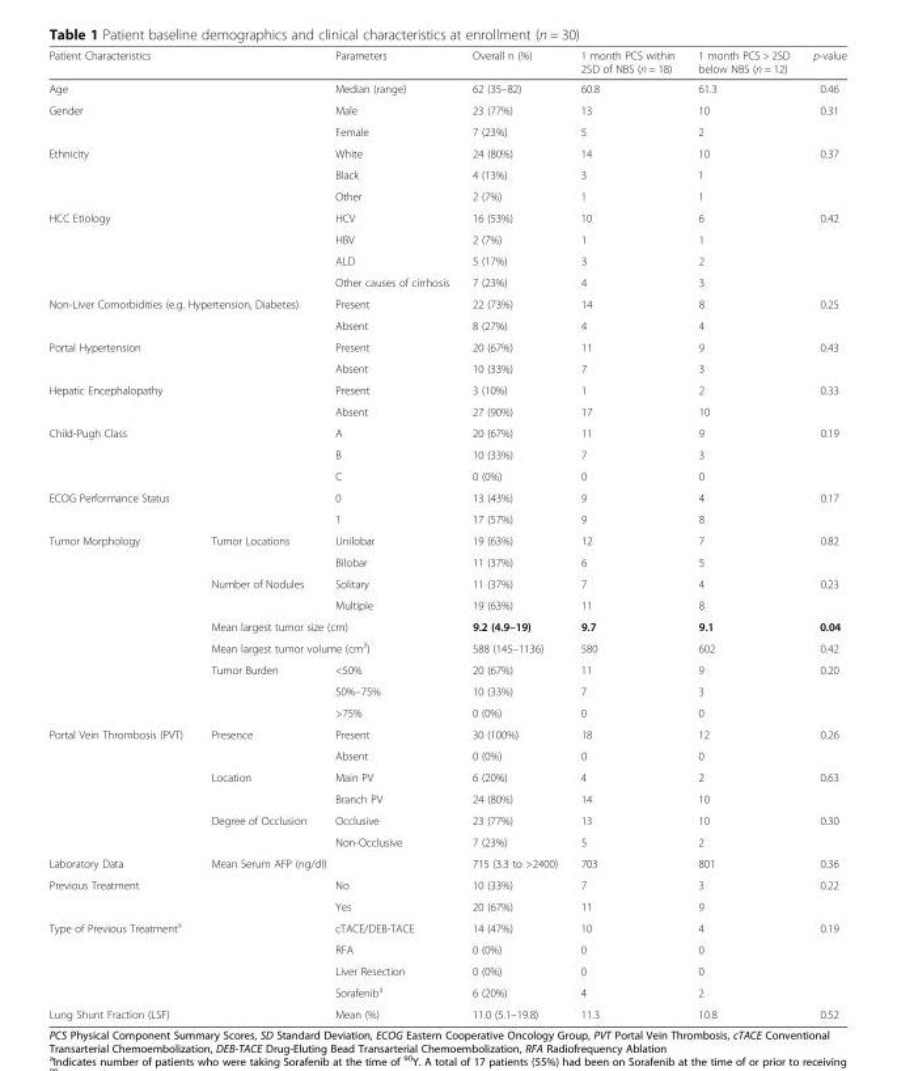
<table><thead><tr><td colspan="2">Patient Characteristics</td><td>Parameters</td><td>Overall n (%)</td><td>1 month PCS within 2SD of NBS (n = 18)</td><td>1 month PCS &gt; 2SD below NBS (n = 12)</td><td>p-value</td></tr></thead><tbody><tr><td colspan="2">Age</td><td>Median (range)</td><td>62 (35–82)</td><td>60.8</td><td>61.3</td><td>0.46</td></tr><tr><td rowspan="2" colspan="2">Gender</td><td>Male</td><td>23 (77%)</td><td>13</td><td>10</td><td rowspan="2">0.31</td></tr><tr><td>Female</td><td>7 (23%)</td><td>5</td><td>2</td></tr><tr><td rowspan="3" colspan="2">Ethnicity</td><td>White</td><td>24 (80%)</td><td>14</td><td>10</td><td rowspan="3">0.37</td></tr><tr><td>Black</td><td>4 (13%)</td><td>3</td><td>1</td></tr><tr><td>Other</td><td>2 (7%)</td><td>1</td><td>1</td></tr><tr><td rowspan="4" colspan="2">HCC Etiology</td><td>HCV</td><td>16 (53%)</td><td>10</td><td>6</td><td rowspan="4">0.42</td></tr><tr><td>HBV</td><td>2 (7%)</td><td>1</td><td>1</td></tr><tr><td>ALD</td><td>5 (17%)</td><td>3</td><td>2</td></tr><tr><td>Other causes of cirrhosis</td><td>7 (23%)</td><td>4</td><td>3</td></tr><tr><td rowspan="2" colspan="2">Non-Liver Comorbidities (e.g. Hypertension, Diabetes)</td><td>Present</td><td>22 (73%)</td><td>14</td><td>8</td><td rowspan="2">0.25</td></tr><tr><td>Absent</td><td>8 (27%)</td><td>4</td><td>4</td></tr><tr><td rowspan="2" colspan="2">Portal Hypertension</td><td>Present</td><td>20 (67%)</td><td>11</td><td>9</td><td rowspan="2">0.43</td></tr><tr><td>Absent</td><td>10 (33%)</td><td>7</td><td>3</td></tr><tr><td rowspan="2" colspan="2">Hepatic Encephalopathy</td><td>Present</td><td>3 (10%)</td><td>1</td><td>2</td><td rowspan="2">0.33</td></tr><tr><td>Absent</td><td>27 (90%)</td><td>17</td><td>10</td></tr><tr><td rowspan="3" colspan="2">Child-Pugh Class</td><td>A</td><td>20 (67%)</td><td>11</td><td>9</td><td rowspan="3">0.19</td></tr><tr><td>B</td><td>10 (33%)</td><td>7</td><td>3</td></tr><tr><td>C</td><td>0 (0%)</td><td>0</td><td>0</td></tr><tr><td rowspan="2" colspan="2">ECOG Performance Status</td><td>0</td><td>13 (43%)</td><td>9</td><td>4</td><td rowspan="2">0.17</td></tr><tr><td>1</td><td>17 (57%)</td><td>9</td><td>8</td></tr><tr><td rowspan="9">Tumor Morphology</td><td rowspan="2">Tumor Locations</td><td>Unilobar</td><td>19 (63%)</td><td>12</td><td>7</td><td rowspan="2">0.82</td></tr><tr><td>Bilobar</td><td>11 (37%)</td><td>6</td><td>5</td></tr><tr><td rowspan="2">Number of Nodules</td><td>Solitary</td><td>11 (37%)</td><td>7</td><td>4</td><td rowspan="2">0.23</td></tr><tr><td>Multiple</td><td>19 (63%)</td><td>11</td><td>8</td></tr><tr><td colspan="2">Mean largest tumor size (cm)</td><td>9.2 (4.9–19)</td><td>9.7</td><td>9.1</td><td>0.04</td></tr><tr><td colspan="2">Mean largest tumor volume (cm<sup>3</sup>)</td><td>588 (145–1136)</td><td>580</td><td>602</td><td>0.42</td></tr><tr><td rowspan="3">Tumor Burden</td><td>&lt;50%</td><td>20 (67%)</td><td>11</td><td>9</td><td rowspan="3">0.20</td></tr><tr><td>50%–75%</td><td>10 (33%)</td><td>7</td><td>3</td></tr><tr><td>&gt;75%</td><td>0 (0%)</td><td>0</td><td>0</td></tr><tr><td rowspan="6">Portal Vein Thrombosis (PVT)</td><td rowspan="2">Presence</td><td>Present</td><td>30 (100%)</td><td>18</td><td>12</td><td rowspan="2">0.26</td></tr><tr><td>Absent</td><td>0 (0%)</td><td>0</td><td>0</td></tr><tr><td rowspan="2">Location</td><td>Main PV</td><td>6 (20%)</td><td>4</td><td>2</td><td rowspan="2">0.63</td></tr><tr><td>Branch PV</td><td>24 (80%)</td><td>14</td><td>10</td></tr><tr><td rowspan="2">Degree of Occlusion</td><td>Occlusive</td><td>23 (77%)</td><td>13</td><td>10</td><td rowspan="2">0.30</td></tr><tr><td>Non-Occlusive</td><td>7 (23%)</td><td>5</td><td>2</td></tr><tr><td>Laboratory Data</td><td colspan="2">Mean Serum AFP (ng/dl)</td><td>715 (3.3 to &gt;2400)</td><td>703</td><td>801</td><td>0.36</td></tr><tr><td rowspan="2" colspan="2">Previous Treatment</td><td>No</td><td>10 (33%)</td><td>7</td><td>3</td><td rowspan="2">0.22</td></tr><tr><td>Yes</td><td>20 (67%)</td><td>11</td><td>9</td></tr><tr><td rowspan="4" colspan="2">Type of Previous Treatment<sup>a</sup></td><td>cTACE/DEB-TACE</td><td>14 (47%)</td><td>10</td><td>4</td><td rowspan="4">0.19</td></tr><tr><td>RFA</td><td>0 (0%)</td><td>0</td><td>0</td></tr><tr><td>Liver Resection</td><td>0 (0%)</td><td>0</td><td>0</td></tr><tr><td>Sorafenib<sup>a</sup></td><td>6 (20%)</td><td>4</td><td>2</td></tr><tr><td colspan="2">Lung Shunt Fraction (LSF)</td><td>Mean (%)</td><td>11.0 (5.1–19.8)</td><td>11.3</td><td>10.8</td><td>0.52</td></tr></tbody></table>